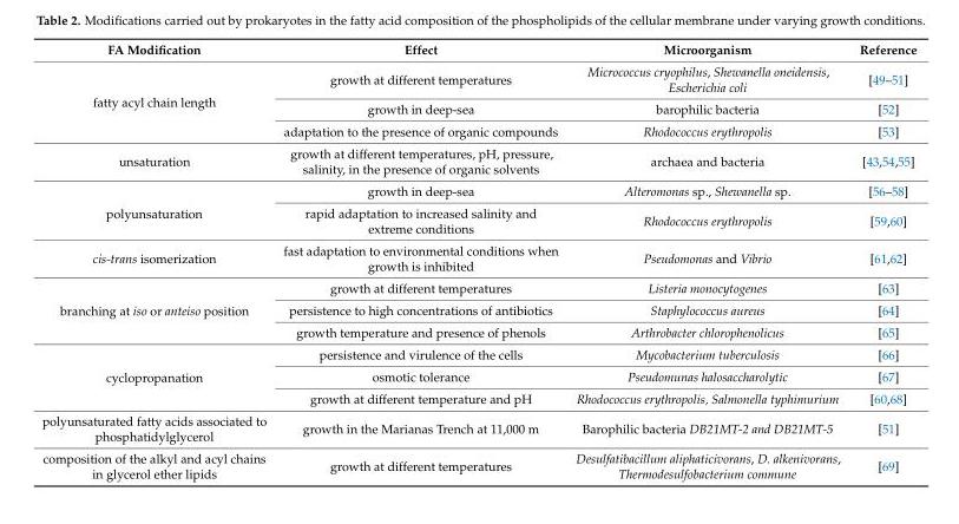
<table><thead><tr><td>FA Modification</td><td>Effect</td><td>Microorganism</td><td>Reference</td></tr></thead><tbody><tr><td rowspan="3">fatty acyl chain length</td><td>growth at different temperatures</td><td>Micrococcus cryophilus, Shewanella oneidensis, Escherichia coli</td><td>[49–51]</td></tr><tr><td>growth in deep-sea</td><td>barophilic bacteria</td><td>[52]</td></tr><tr><td>adaptation to the presence of organic compounds</td><td>Rhodococcus erythropolis</td><td>[53]</td></tr><tr><td>unsaturation</td><td>growth at different temperatures, pH, pressure, salinity, in the presence of organic solvents</td><td>archaea and bacteria</td><td>[43,54,55]</td></tr><tr><td rowspan="2">polyunsaturation</td><td>growth in deep-sea</td><td>Alteromonas sp., Shewanella sp.</td><td>[56–58]</td></tr><tr><td>rapid adaptation to increased salinity and extreme conditions</td><td>Rhodococcus erythropolis</td><td>[59,60]</td></tr><tr><td>cis-trans isomerization</td><td>fast adaptation to environmental conditions when growth is inhibited</td><td>Pseudomonas and Vibrio</td><td>[61,62]</td></tr><tr><td rowspan="3">branching at iso or anteiso position</td><td>growth at different temperatures</td><td>Listeria monocytogenes</td><td>[63]</td></tr><tr><td>persistence to high concentrations of antibiotics</td><td>Staphylococcus aureus</td><td>[64]</td></tr><tr><td>growth temperature and presence of phenols</td><td>Arthrobacter chlorophenolicus</td><td>[65]</td></tr><tr><td rowspan="3">cyclopropanation</td><td>persistence and virulence of the cells</td><td>Mycobacterium tuberculosis</td><td>[66]</td></tr><tr><td>osmotic tolerance</td><td>Pseudomunas halosaccharolytic</td><td>[67]</td></tr><tr><td>growth at different temperature and pH</td><td>Rhodococcus erythropolis, Salmonella typhimurium</td><td>[60,68]</td></tr><tr><td>polyunsaturated fatty acids associated to phosphatidylglycerol</td><td>growth in the Marianas Trench at 11,000 m</td><td>Barophilic bacteria DB21MT-2 and DB21MT-5</td><td>[51]</td></tr><tr><td>composition of the alkyl and acyl chains in glycerol ether lipids</td><td>growth at different temperatures</td><td>Desulfatibacillum aliphaticivorans, D. alkenivorans, Thermodesulfobacterium commune</td><td>[69]</td></tr></tbody></table>